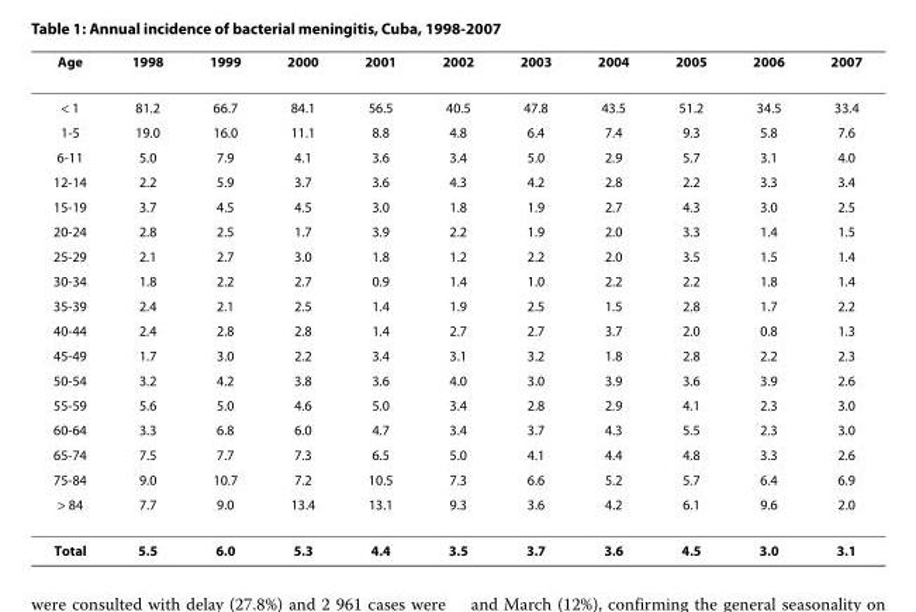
<table><thead><tr><td>Age</td><td>1998</td><td>1999</td><td>2000</td><td>2001</td><td>2002</td><td>2003</td><td>2004</td><td>2005</td><td>2006</td><td>2007</td></tr></thead><tbody><tr><td>&lt; 1</td><td>81.2</td><td>66.7</td><td>84.1</td><td>56.5</td><td>40.5</td><td>47.8</td><td>43.5</td><td>51.2</td><td>34.5</td><td>33.4</td></tr><tr><td>1-5</td><td>19.0</td><td>16.0</td><td>11.1</td><td>8.8</td><td>4.8</td><td>6.4</td><td>7.4</td><td>9.3</td><td>5.8</td><td>7.6</td></tr><tr><td>6-11</td><td>5.0</td><td>7.9</td><td>4.1</td><td>3.6</td><td>3.4</td><td>5.0</td><td>2.9</td><td>5.7</td><td>3.1</td><td>4.0</td></tr><tr><td>12-14</td><td>2.2</td><td>5.9</td><td>3.7</td><td>3.6</td><td>4.3</td><td>4.2</td><td>2.8</td><td>2.2</td><td>3.3</td><td>3.4</td></tr><tr><td>15-19</td><td>3.7</td><td>4.5</td><td>4.5</td><td>3.0</td><td>1.8</td><td>1.9</td><td>2.7</td><td>4.3</td><td>3.0</td><td>2.5</td></tr><tr><td>20-24</td><td>2.8</td><td>2.5</td><td>1.7</td><td>3.9</td><td>2.2</td><td>1.9</td><td>2.0</td><td>3.3</td><td>1.4</td><td>1.5</td></tr><tr><td>25-29</td><td>2.1</td><td>2.7</td><td>3.0</td><td>1.8</td><td>1.2</td><td>2.2</td><td>2.0</td><td>3.5</td><td>1.5</td><td>1.4</td></tr><tr><td>30-34</td><td>1.8</td><td>2.2</td><td>2.7</td><td>0.9</td><td>1.4</td><td>1.0</td><td>2.2</td><td>2.2</td><td>1.8</td><td>1.4</td></tr><tr><td>35-39</td><td>2.4</td><td>2.1</td><td>2.5</td><td>1.4</td><td>1.9</td><td>2.5</td><td>1.5</td><td>2.8</td><td>1.7</td><td>2.2</td></tr><tr><td>40-44</td><td>2.4</td><td>2.8</td><td>2.8</td><td>1.4</td><td>2.7</td><td>2.7</td><td>3.7</td><td>2.0</td><td>0.8</td><td>1.3</td></tr><tr><td>45-49</td><td>1.7</td><td>3.0</td><td>2.2</td><td>3.4</td><td>3.1</td><td>3.2</td><td>1.8</td><td>2.8</td><td>2.2</td><td>2.3</td></tr><tr><td>50-54</td><td>3.2</td><td>4.2</td><td>3.8</td><td>3.6</td><td>4.0</td><td>3.0</td><td>3.9</td><td>3.6</td><td>3.9</td><td>2.6</td></tr><tr><td>55-59</td><td>5.6</td><td>5.0</td><td>4.6</td><td>5.0</td><td>3.4</td><td>2.8</td><td>2.9</td><td>4.1</td><td>2.3</td><td>3.0</td></tr><tr><td>60-64</td><td>3.3</td><td>6.8</td><td>6.0</td><td>4.7</td><td>3.4</td><td>3.7</td><td>4.3</td><td>5.5</td><td>2.3</td><td>3.0</td></tr><tr><td>65-74</td><td>7.5</td><td>7.7</td><td>7.3</td><td>6.5</td><td>5.0</td><td>4.1</td><td>4.4</td><td>4.8</td><td>3.3</td><td>2.6</td></tr><tr><td>75-84</td><td>9.0</td><td>10.7</td><td>7.2</td><td>10.5</td><td>7.3</td><td>6.6</td><td>5.2</td><td>5.7</td><td>6.4</td><td>6.9</td></tr><tr><td>&gt; 84</td><td>7.7</td><td>9.0</td><td>13.4</td><td>13.1</td><td>9.3</td><td>3.6</td><td>4.2</td><td>6.1</td><td>9.6</td><td>2.0</td></tr><tr><td>Total</td><td>5.5</td><td>6.0</td><td>5.3</td><td>4.4</td><td>3.5</td><td>3.7</td><td>3.6</td><td>4.5</td><td>3.0</td><td>3.1</td></tr></tbody></table>